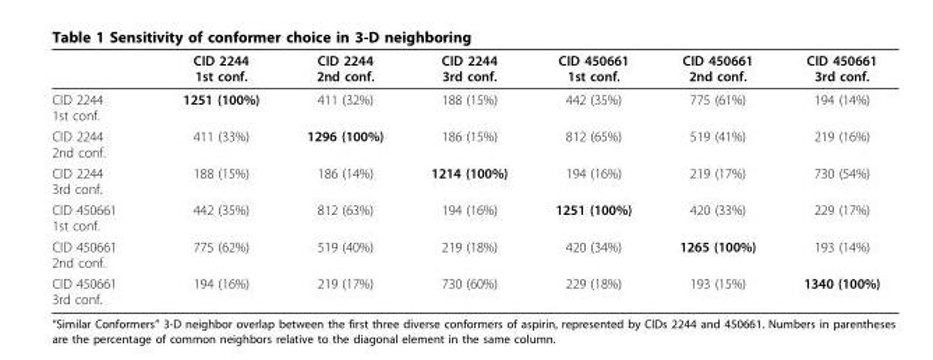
<table><thead><tr><td></td><td>CID 2244 1st conf.</td><td>CID 2244 2nd conf.</td><td>CID 2244 3rd conf.</td><td>CID 450661 1st conf.</td><td>CID 450661 2nd conf.</td><td>CID 450661 3rd conf.</td></tr></thead><tbody><tr><td>CID 2244 1st conf.</td><td>1251 (100%)</td><td>411 (32%)</td><td>188 (15%)</td><td>442 (35%)</td><td>775 (61%)</td><td>194 (14%)</td></tr><tr><td>CID 2244 2nd conf.</td><td>411 (33%)</td><td>1296 (100%)</td><td>186 (15%)</td><td>812 (65%)</td><td>519 (41%)</td><td>219 (16%)</td></tr><tr><td>CID 2244 3rd conf.</td><td>188 (15%)</td><td>186 (14%)</td><td>1214 (100%)</td><td>194 (16%)</td><td>219 (17%)</td><td>730 (54%)</td></tr><tr><td>CID 450661 1st conf.</td><td>442 (35%)</td><td>812 (63%)</td><td>194 (16%)</td><td>1251 (100%)</td><td>420 (33%)</td><td>229 (17%)</td></tr><tr><td>CID 450661 2nd conf.</td><td>775 (62%)</td><td>519 (40%)</td><td>219 (18%)</td><td>420 (34%)</td><td>1265 (100%)</td><td>193 (14%)</td></tr><tr><td>CID 450661 3rd conf.</td><td>194 (16%)</td><td>219 (17%)</td><td>730 (60%)</td><td>229 (18%)</td><td>193 (15%)</td><td>1340 (100%)</td></tr></tbody></table>